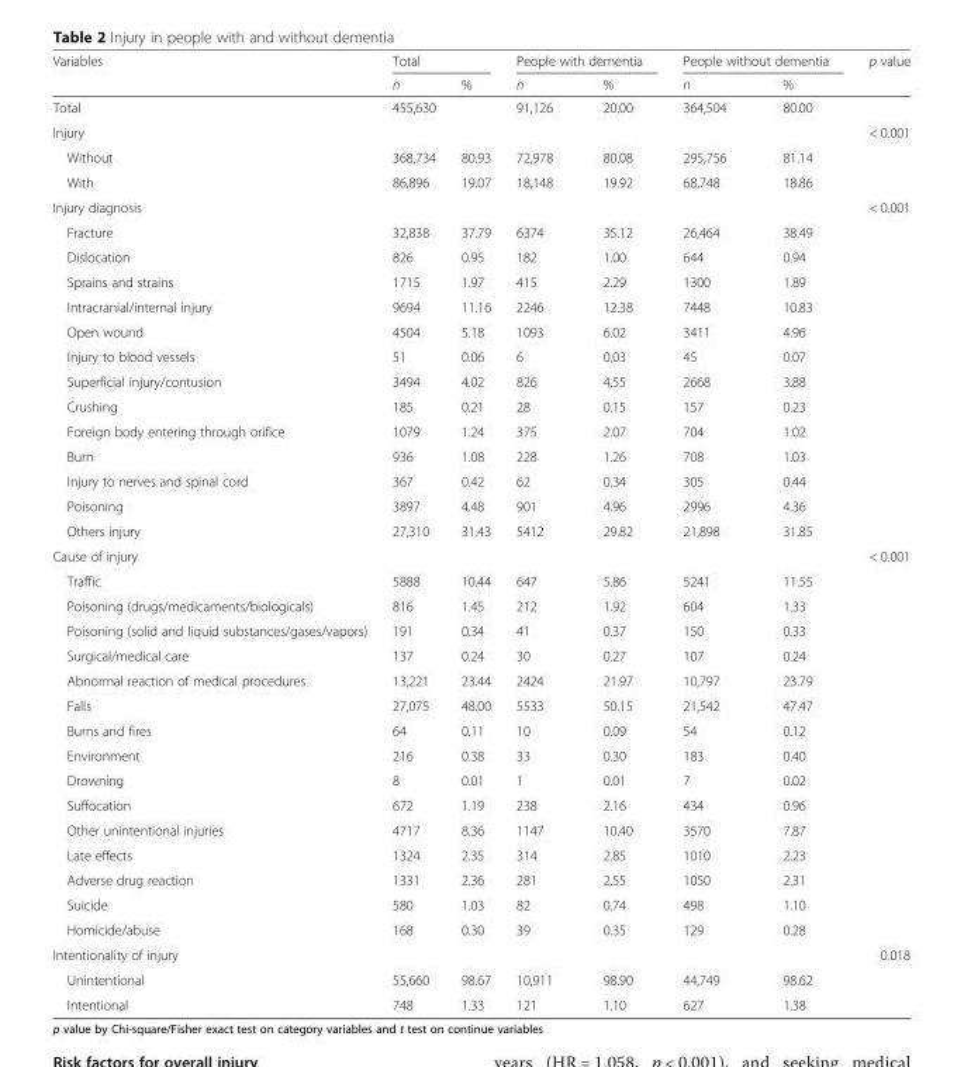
<table><thead><tr><td rowspan="2">Variables</td><td colspan="2">Total</td><td colspan="2">People with dementia</td><td colspan="2">People without dementia</td><td rowspan="2">p value</td></tr><tr><td>n</td><td>%</td><td>n</td><td>%</td><td>n</td><td>%</td></tr></thead><tbody><tr><td>Total</td><td>455,630</td><td></td><td>91,126</td><td>20.00</td><td>364,504</td><td>80.00</td><td></td></tr><tr><td>Injury</td><td></td><td></td><td></td><td></td><td></td><td></td><td>&lt; 0.001</td></tr><tr><td>Without</td><td>368,734</td><td>80.93</td><td>72,978</td><td>80.08</td><td>295,756</td><td>81.14</td><td></td></tr><tr><td>With</td><td>86,896</td><td>19.07</td><td>18,148</td><td>19.92</td><td>68,748</td><td>18.86</td><td></td></tr><tr><td>Injury diagnosis</td><td></td><td></td><td></td><td></td><td></td><td></td><td>&lt; 0.001</td></tr><tr><td>Fracture</td><td>32,838</td><td>37.79</td><td>6374</td><td>35.12</td><td>26,464</td><td>38.49</td><td></td></tr><tr><td>Dislocation</td><td>826</td><td>0.95</td><td>182</td><td>1.00</td><td>644</td><td>0.94</td><td></td></tr><tr><td>Sprains and strains</td><td>1715</td><td>1.97</td><td>415</td><td>2.29</td><td>1300</td><td>1.89</td><td></td></tr><tr><td>Intracranial/internal injury</td><td>9694</td><td>11.16</td><td>2246</td><td>12.38</td><td>7448</td><td>10.83</td><td></td></tr><tr><td>Open wound</td><td>4504</td><td>5.18</td><td>1093</td><td>6.02</td><td>3411</td><td>4.96</td><td></td></tr><tr><td>Injury to blood vessels</td><td>51</td><td>0.06</td><td>6</td><td>0.03</td><td>45</td><td>0.07</td><td></td></tr><tr><td>Superficial injury/contusion</td><td>3494</td><td>4.02</td><td>826</td><td>4.55</td><td>2668</td><td>3.88</td><td></td></tr><tr><td>Crushing</td><td>185</td><td>0.21</td><td>28</td><td>0.15</td><td>157</td><td>0.23</td><td></td></tr><tr><td>Foreign body entering through orifice</td><td>1079</td><td>1.24</td><td>375</td><td>2.07</td><td>704</td><td>1.02</td><td></td></tr><tr><td>Burn</td><td>936</td><td>1.08</td><td>228</td><td>1.26</td><td>708</td><td>1.03</td><td></td></tr><tr><td>Injury to nerves and spinal cord</td><td>367</td><td>0.42</td><td>62</td><td>0.34</td><td>305</td><td>0.44</td><td></td></tr><tr><td>Poisoning</td><td>3897</td><td>4.48</td><td>901</td><td>4.96</td><td>2996</td><td>4.36</td><td></td></tr><tr><td>Others injury</td><td>27,310</td><td>31.43</td><td>5412</td><td>29.82</td><td>21,898</td><td>31.85</td><td></td></tr><tr><td>Cause of injury</td><td></td><td></td><td></td><td></td><td></td><td></td><td>&lt; 0.001</td></tr><tr><td>Traffic</td><td>5888</td><td>10.44</td><td>647</td><td>5.86</td><td>5241</td><td>11.55</td><td></td></tr><tr><td>Poisoning (drugs/medicaments/biologicals)</td><td>816</td><td>1.45</td><td>212</td><td>1.92</td><td>604</td><td>1.33</td><td></td></tr><tr><td>Poisoning (solid and liquid substances/gases/vapors)</td><td>191</td><td>0.34</td><td>41</td><td>0.37</td><td>150</td><td>0.33</td><td></td></tr><tr><td>Surgical/medical care</td><td>137</td><td>0.24</td><td>30</td><td>0.27</td><td>107</td><td>0.24</td><td></td></tr><tr><td>Abnormal reaction of medical procedures</td><td>13,221</td><td>23.44</td><td>2424</td><td>21.97</td><td>10,797</td><td>23.79</td><td></td></tr><tr><td>Falls</td><td>27,075</td><td>48.00</td><td>5533</td><td>50.15</td><td>21,542</td><td>47.47</td><td></td></tr><tr><td>Burns and fires</td><td>64</td><td>0.11</td><td>10</td><td>0.09</td><td>54</td><td>0.12</td><td></td></tr><tr><td>Environment</td><td>216</td><td>0.38</td><td>33</td><td>0.30</td><td>183</td><td>0.40</td><td></td></tr><tr><td>Drowning</td><td>8</td><td>0.01</td><td>1</td><td>0.01</td><td>7</td><td>0.02</td><td></td></tr><tr><td>Suffocation</td><td>672</td><td>1.19</td><td>238</td><td>2.16</td><td>434</td><td>0.96</td><td></td></tr><tr><td>Other unintentional injuries</td><td>4717</td><td>8.36</td><td>1147</td><td>10.40</td><td>3570</td><td>7.87</td><td></td></tr><tr><td>Late effects</td><td>1324</td><td>2.35</td><td>314</td><td>2.85</td><td>1010</td><td>2.23</td><td></td></tr><tr><td>Adverse drug reaction</td><td>1331</td><td>2.36</td><td>281</td><td>2.55</td><td>1050</td><td>2.31</td><td></td></tr><tr><td>Suicide</td><td>580</td><td>1.03</td><td>82</td><td>0.74</td><td>498</td><td>1.10</td><td></td></tr><tr><td>Homicide/abuse</td><td>168</td><td>0.30</td><td>39</td><td>0.35</td><td>129</td><td>0.28</td><td></td></tr><tr><td>Intentionality of injury</td><td></td><td></td><td></td><td></td><td></td><td></td><td>0.018</td></tr><tr><td>Unintentional</td><td>55,660</td><td>98.67</td><td>10,911</td><td>98.90</td><td>44,749</td><td>98.62</td><td></td></tr><tr><td>Intentional</td><td>748</td><td>1.33</td><td>121</td><td>1.10</td><td>627</td><td>1.38</td><td></td></tr></tbody></table>